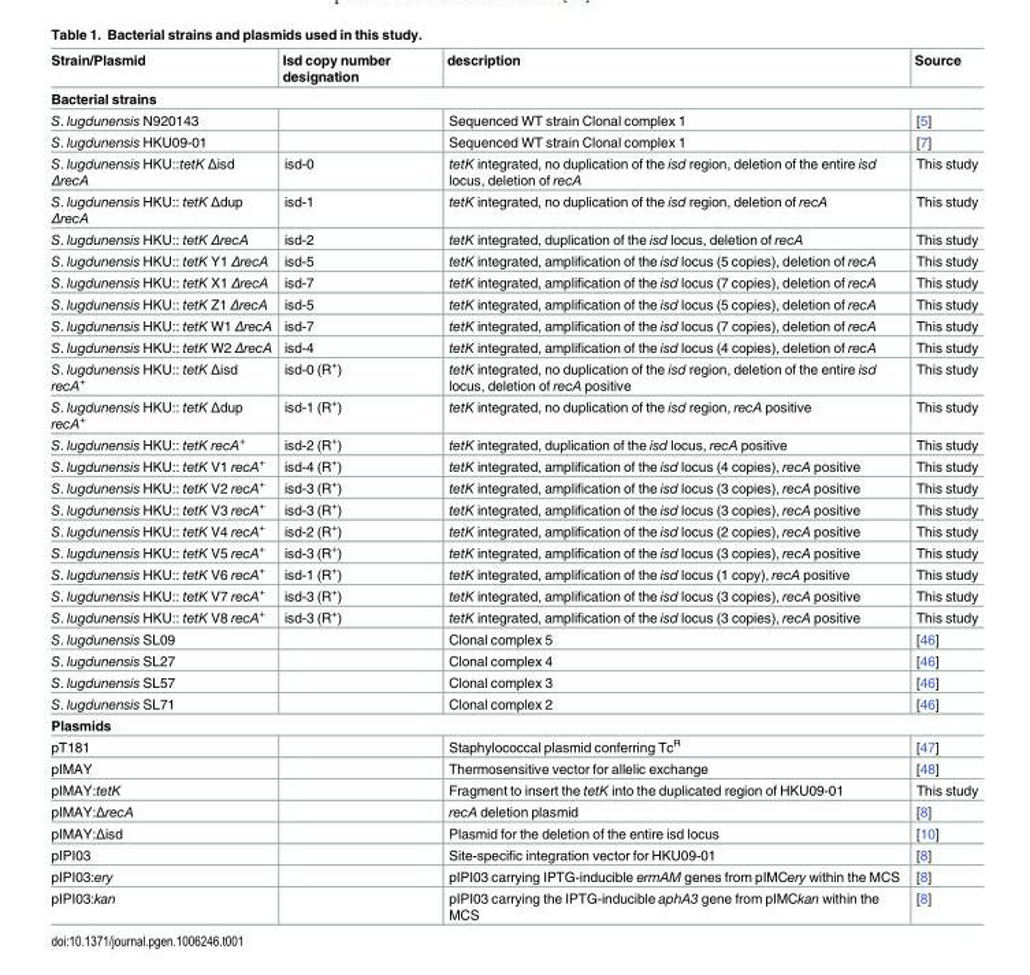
<table><thead><tr><td>Strain/Plasmid</td><td>Isd copy number designation</td><td>description</td><td>Source</td></tr></thead><tbody><tr><td colspan="4">Bacterial strains</td></tr><tr><td>S. lugdunensis N920143</td><td></td><td>Sequenced WT strain Clonal complex 1</td><td>[5]</td></tr><tr><td>S. lugdunensis HKU09-01</td><td></td><td>Sequenced WT strain Clonal complex 1</td><td>[7]</td></tr><tr><td>S. lugdunensis HKU::tetK Δisd ΔrecA</td><td>isd-0</td><td>tetK integrated, no duplication of the isd region, deletion of the entire isd locus, deletion of recA</td><td>This study</td></tr><tr><td>S. lugdunensis HKU:: tetK Δdup ΔrecA</td><td>isd-1</td><td>tetK integrated, no duplication of the isd region, deletion of recA</td><td>This study</td></tr><tr><td>S. lugdunensis HKU:: tetK ΔrecA</td><td>isd-2</td><td>tetK integrated, duplication of the isd locus, deletion of recA</td><td>This study</td></tr><tr><td>S. lugdunensis HKU:: tetK Y1 ΔrecA</td><td>isd-5</td><td>tetK integrated, amplification of the isd locus (5 copies), deletion of recA</td><td>This study</td></tr><tr><td>S. lugdunensis HKU:: tetK X1 ΔrecA</td><td>isd-7</td><td>tetK integrated, amplification of the isd locus (7 copies), deletion of recA</td><td>This study</td></tr><tr><td>S. lugdunensis HKU:: tetK Z1 ΔrecA</td><td>isd-5</td><td>tetK integrated, amplification of the isd locus (5 copies), deletion of recA</td><td>This study</td></tr><tr><td>S. lugdunensis HKU:: tetK W1 ΔrecA</td><td>isd-7</td><td>tetK integrated, amplification of the isd locus (7 copies), deletion of recA</td><td>This study</td></tr><tr><td>S. lugdunensis HKU:: tetK W2 ΔrecA</td><td>isd-4</td><td>tetK integrated, amplification of the isd locus (4 copies), deletion of recA</td><td>This study</td></tr><tr><td>S. lugdunensis HKU:: tetK Δisd recA<sup>+</sup></td><td>isd-0 (R<sup>+</sup>)</td><td>tetK integrated, no duplication of the isd region, deletion of the entire isd locus, deletion of recA positive</td><td>This study</td></tr><tr><td>S. lugdunensis HKU:: tetK Δdup recA<sup>+</sup></td><td>isd-1 (R<sup>+</sup>)</td><td>tetK integrated, no duplication of the isd region, recA positive</td><td>This study</td></tr><tr><td>S. lugdunensis HKU:: tetK recA<sup>+</sup></td><td>isd-2 (R<sup>+</sup>)</td><td>tetK integrated, duplication of the isd locus, recA positive</td><td>This study</td></tr><tr><td>S. lugdunensis HKU:: tetK V1 recA<sup>+</sup></td><td>isd-4 (R<sup>+</sup>)</td><td>tetK integrated, amplification of the isd locus (4 copies), recA positive</td><td>This study</td></tr><tr><td>S. lugdunensis HKU:: tetK V2 recA<sup>+</sup></td><td>isd-3 (R<sup>+</sup>)</td><td>tetK integrated, amplification of the isd locus (3 copies), recA positive</td><td>This study</td></tr><tr><td>S. lugdunensis HKU:: tetK V3 recA<sup>+</sup></td><td>isd-3 (R<sup>+</sup>)</td><td>tetK integrated, amplification of the isd locus (3 copies), recA positive</td><td>This study</td></tr><tr><td>S. lugdunensis HKU:: tetK V4 recA<sup>+</sup></td><td>isd-2 (R<sup>+</sup>)</td><td>tetK integrated, amplification of the isd locus (2 copies), recA positive</td><td>This study</td></tr><tr><td>S. lugdunensis HKU:: tetK V5 recA<sup>+</sup></td><td>isd-3 (R<sup>+</sup>)</td><td>tetK integrated, amplification of the isd locus (3 copies), recA positive</td><td>This study</td></tr><tr><td>S. lugdunensis HKU:: tetK V6 recA<sup>+</sup></td><td>isd-1 (R<sup>+</sup>)</td><td>tetK integrated, amplification of the isd locus (1 copy), recA positive</td><td>This study</td></tr><tr><td>S. lugdunensis HKU:: tetK V7 recA<sup>+</sup></td><td>isd-3 (R<sup>+</sup>)</td><td>tetK integrated, amplification of the isd locus (3 copies), recA positive</td><td>This study</td></tr><tr><td>S. lugdunensis HKU:: tetK V8 recA<sup>+</sup></td><td>isd-3 (R<sup>+</sup>)</td><td>tetK integrated, amplification of the isd locus (3 copies), recA positive</td><td>This study</td></tr><tr><td>S. lugdunensis SL09</td><td></td><td>Clonal complex 5</td><td>[46]</td></tr><tr><td>S. lugdunensis SL27</td><td></td><td>Clonal complex 4</td><td>[46]</td></tr><tr><td>S. lugdunensis SL57</td><td></td><td>Clonal complex 3</td><td>[46]</td></tr><tr><td>S. lugdunensis SL71</td><td></td><td>Clonal complex 2</td><td>[46]</td></tr><tr><td colspan="4">Plasmids</td></tr><tr><td>pT181</td><td></td><td>Staphylococcal plasmid conferring Tc<sup>R</sup></td><td>[47]</td></tr><tr><td>pIMAY</td><td></td><td>Thermosensitive vector for allelic exchange</td><td>[48]</td></tr><tr><td>pIMAY:tetK</td><td></td><td>Fragment to insert the tetK into the duplicated region of HKU09-01</td><td>This study</td></tr><tr><td>pIMAY:ΔrecA</td><td></td><td>recA deletion plasmid</td><td>[8]</td></tr><tr><td>pIMAY:Δisd</td><td></td><td>Plasmid for the deletion of the entire isd locus</td><td>[10]</td></tr><tr><td>pIPI03</td><td></td><td>Site-specific integration vector for HKU09-01</td><td>[8]</td></tr><tr><td>pIPI03:ery</td><td></td><td>pIPI03 carrying IPTG-inducible ermAM genes from pIMCery within the MCS</td><td>[8]</td></tr><tr><td>pIPI03:kan</td><td></td><td>pIPI03 carrying the IPTG-inducible aphA3 gene from pIMCkan within the MCS</td><td>[8]</td></tr></tbody></table>